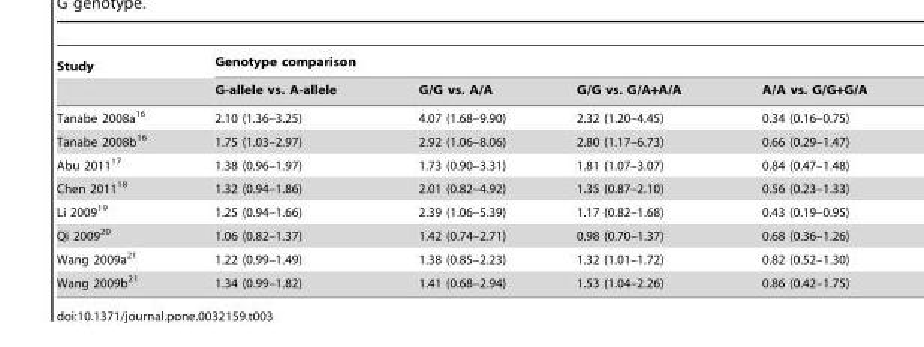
<table><thead><tr><td rowspan="2">Study</td><td colspan="4">Genotype comparison</td></tr><tr><td>G-allele vs. A-allele</td><td>G/G vs. A/A</td><td>G/G vs. G/A+A/A</td><td>A/A vs. G/G+G/A</td></tr></thead><tbody><tr><td>Tanabe 2008a<sup>16</sup></td><td>2.10 (1.36–3.25)</td><td>4.07 (1.68–9.90)</td><td>2.32 (1.20–4.45)</td><td>0.34 (0.16–0.75)</td></tr><tr><td>Tanabe 2008b<sup>16</sup></td><td>1.75 (1.03–2.97)</td><td>2.92 (1.06–8.06)</td><td>2.80 (1.17–6.73)</td><td>0.66 (0.29–1.47)</td></tr><tr><td>Abu 2011<sup>17</sup></td><td>1.38 (0.96–1.97)</td><td>1.73 (0.90–3.31)</td><td>1.81 (1.07–3.07)</td><td>0.84 (0.47–1.48)</td></tr><tr><td>Chen 2011<sup>18</sup></td><td>1.32 (0.94–1.86)</td><td>2.01 (0.82–4.92)</td><td>1.35 (0.87–2.10)</td><td>0.56 (0.23–1.33)</td></tr><tr><td>Li 2009<sup>19</sup></td><td>1.25 (0.94–1.66)</td><td>2.39 (1.06–5.39)</td><td>1.17 (0.82–1.68)</td><td>0.43 (0.19–0.95)</td></tr><tr><td>Qi 2009<sup>20</sup></td><td>1.06 (0.82–1.37)</td><td>1.42 (0.74–2.71)</td><td>0.98 (0.70–1.37)</td><td>0.68 (0.36–1.26)</td></tr><tr><td>Wang 2009a<sup>21</sup></td><td>1.22 (0.99–1.49)</td><td>1.38 (0.85–2.23)</td><td>1.32 (1.01–1.72)</td><td>0.82 (0.52–1.30)</td></tr><tr><td>Wang 2009b<sup>21</sup></td><td>1.34 (0.99–1.82)</td><td>1.41 (0.68–2.94)</td><td>1.53 (1.04–2.26)</td><td>0.86 (0.42–1.75)</td></tr></tbody></table>